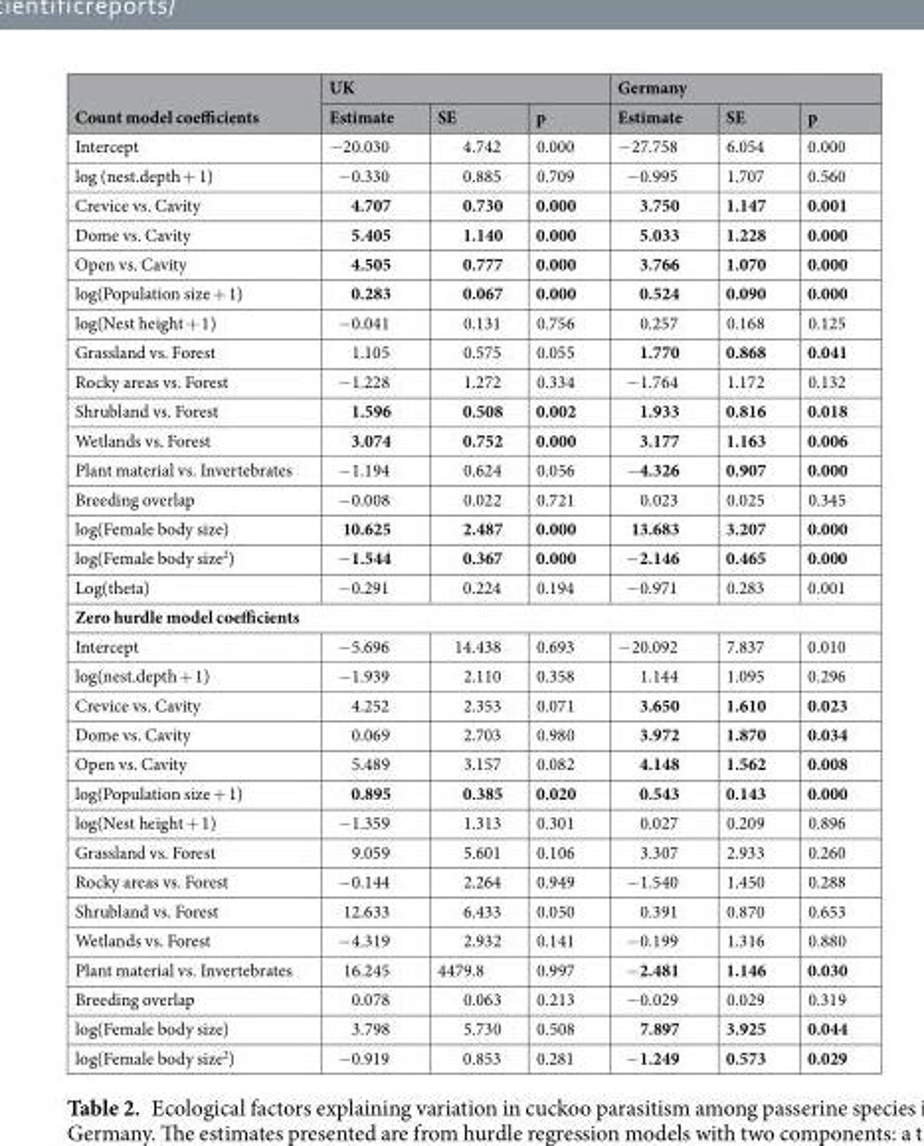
<table><thead><tr><td rowspan="2">Count model coefficients</td><td colspan="3">UK</td><td colspan="3">Germany</td></tr><tr><td>Estimate</td><td>SE</td><td>p</td><td>Estimate</td><td>SE</td><td>p</td></tr></thead><tbody><tr><td>Intercept</td><td>−20.030</td><td>4.742</td><td>0.000</td><td>−27.758</td><td>6.054</td><td>0.000</td></tr><tr><td>log (nest.depth + 1)</td><td>−0.330</td><td>0.885</td><td>0.709</td><td>−0.995</td><td>1.707</td><td>0.560</td></tr><tr><td>Crevice vs. Cavity</td><td>4.707</td><td>0.730</td><td>0.000</td><td>3.750</td><td>1.147</td><td>0.001</td></tr><tr><td>Dome vs. Cavity</td><td>5.405</td><td>1.140</td><td>0.000</td><td>5.033</td><td>1.228</td><td>0.000</td></tr><tr><td>Open vs. Cavity</td><td>4.505</td><td>0.777</td><td>0.000</td><td>3.766</td><td>1.070</td><td>0.000</td></tr><tr><td>log(Population size + 1)</td><td>0.283</td><td>0.067</td><td>0.000</td><td>0.524</td><td>0.090</td><td>0.000</td></tr><tr><td>log(Nest height + 1)</td><td>−0.041</td><td>0.131</td><td>0.756</td><td>0.257</td><td>0.168</td><td>0.125</td></tr><tr><td>Grassland vs. Forest</td><td>1.105</td><td>0.575</td><td>0.055</td><td>1.770</td><td>0.868</td><td>0.041</td></tr><tr><td>Rocky areas vs. Forest</td><td>−1.228</td><td>1.272</td><td>0.334</td><td>−1.764</td><td>1.172</td><td>0.132</td></tr><tr><td>Shrubland vs. Forest</td><td>1.596</td><td>0.508</td><td>0.002</td><td>1.933</td><td>0.816</td><td>0.018</td></tr><tr><td>Wetlands vs. Forest</td><td>3.074</td><td>0.752</td><td>0.000</td><td>3.177</td><td>1.163</td><td>0.006</td></tr><tr><td>Plant material vs. Invertebrates</td><td>−1.194</td><td>0.624</td><td>0.056</td><td>−4.326</td><td>0.907</td><td>0.000</td></tr><tr><td>Breeding overlap</td><td>−0.008</td><td>0.022</td><td>0.721</td><td>0.023</td><td>0.025</td><td>0.345</td></tr><tr><td>log(Female body size)</td><td>10.625</td><td>2.487</td><td>0.000</td><td>13.683</td><td>3.207</td><td>0.000</td></tr><tr><td>log(Female body size<sup>2</sup>)</td><td>−1.544</td><td>0.367</td><td>0.000</td><td>−2.146</td><td>0.465</td><td>0.000</td></tr><tr><td>Log(theta)</td><td>−0.291</td><td>0.224</td><td>0.194</td><td>−0.971</td><td>0.283</td><td>0.001</td></tr><tr><td colspan="7">Zero hurdle model coefficients</td></tr><tr><td>Intercept</td><td>−5.696</td><td>14.438</td><td>0.693</td><td>−20.092</td><td>7.837</td><td>0.010</td></tr><tr><td>log(nest.depth + 1)</td><td>−1.939</td><td>2.110</td><td>0.358</td><td>1.144</td><td>1.095</td><td>0.296</td></tr><tr><td>Crevice vs. Cavity</td><td>4.252</td><td>2.353</td><td>0.071</td><td>3.650</td><td>1.610</td><td>0.023</td></tr><tr><td>Dome vs. Cavity</td><td>0.069</td><td>2.703</td><td>0.980</td><td>3.972</td><td>1.870</td><td>0.034</td></tr><tr><td>Open vs. Cavity</td><td>5.489</td><td>3.157</td><td>0.082</td><td>4.148</td><td>1.562</td><td>0.008</td></tr><tr><td>log(Population size + 1)</td><td>0.895</td><td>0.385</td><td>0.020</td><td>0.543</td><td>0.143</td><td>0.000</td></tr><tr><td>log(Nest height + 1)</td><td>−1.359</td><td>1.313</td><td>0.301</td><td>0.027</td><td>0.209</td><td>0.896</td></tr><tr><td>Grassland vs. Forest</td><td>9.059</td><td>5.601</td><td>0.106</td><td>3.307</td><td>2.933</td><td>0.260</td></tr><tr><td>Rocky areas vs. Forest</td><td>−0.144</td><td>2.264</td><td>0.949</td><td>−1.540</td><td>1.450</td><td>0.288</td></tr><tr><td>Shrubland vs. Forest</td><td>12.633</td><td>6.433</td><td>0.050</td><td>0.391</td><td>0.870</td><td>0.653</td></tr><tr><td>Wetlands vs. Forest</td><td>−4.319</td><td>2.932</td><td>0.141</td><td>−0.199</td><td>1.316</td><td>0.880</td></tr><tr><td>Plant material vs. Invertebrates</td><td>16.245</td><td>4479.8</td><td>0.997</td><td>−2.481</td><td>1.146</td><td>0.030</td></tr><tr><td>Breeding overlap</td><td>0.078</td><td>0.063</td><td>0.213</td><td>−0.029</td><td>0.029</td><td>0.319</td></tr><tr><td>log(Female body size)</td><td>3.798</td><td>5.730</td><td>0.508</td><td>7.897</td><td>3.925</td><td>0.044</td></tr><tr><td>log(Female body size<sup>2</sup>)</td><td>−0.919</td><td>0.853</td><td>0.281</td><td>−1.249</td><td>0.573</td><td>0.029</td></tr></tbody></table>